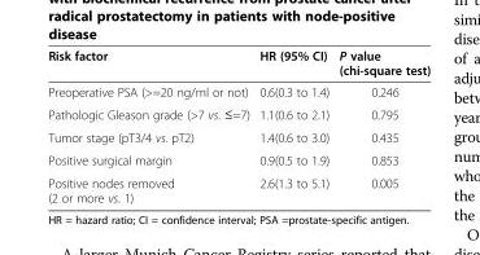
<table><thead><tr><td>Risk factor</td><td>HR (95% CI)</td><td>P value (chi-square test)</td></tr></thead><tbody><tr><td>Preoperative PSA (&gt;=20 ng/ml or not)</td><td>0.6(0.3 to 1.4)</td><td>0.246</td></tr><tr><td>Pathologic Gleason grade (&gt;7 vs. ≤=7)</td><td>1.1(0.6 to 2.1)</td><td>0.795</td></tr><tr><td>Tumor stage (pT3/4 vs. pT2)</td><td>1.4(0.6 to 3.0)</td><td>0.435</td></tr><tr><td>Positive surgical margin</td><td>0.9(0.5 to 1.9)</td><td>0.853</td></tr><tr><td>Positive nodes removed (2 or more vs. 1)</td><td>2.6(1.3 to 5.1)</td><td>0.005</td></tr></tbody></table>